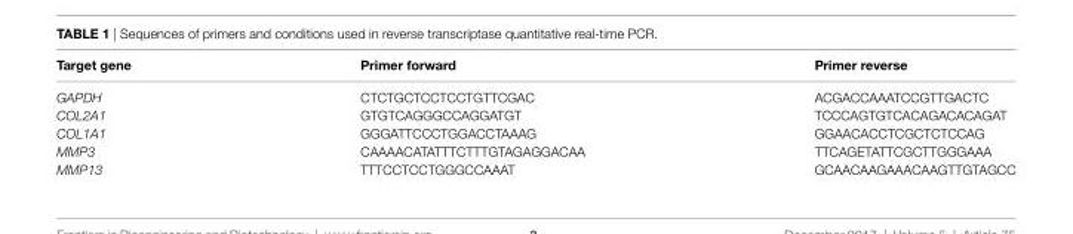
<table><thead><tr><td>Target gene</td><td>Primer forward</td><td>Primer reverse</td></tr></thead><tbody><tr><td>GAPDH</td><td>CTCTGCTCCTCCTGTTCGAC</td><td>ACGACCAAATCCGTTGACTC</td></tr><tr><td>COL2A1</td><td>GTGTCAGGGCCAGGATGT</td><td>TCCCAGTGTCACAGACACAGAT</td></tr><tr><td>COL1A1</td><td>GGGATTCCCTGGACCTAAAG</td><td>GGAACACCTCGCTCTCCAG</td></tr><tr><td>MMP3</td><td>CAAAACATATTTCTTTGTAGAGGACAA</td><td>TTCAGETATTCGCTTGGGAAA</td></tr><tr><td>MMP13</td><td>TTTCCTCCTGGGCCAAAT</td><td>GCAACAAGAAACAAGTTGTAGCC</td></tr></tbody></table>